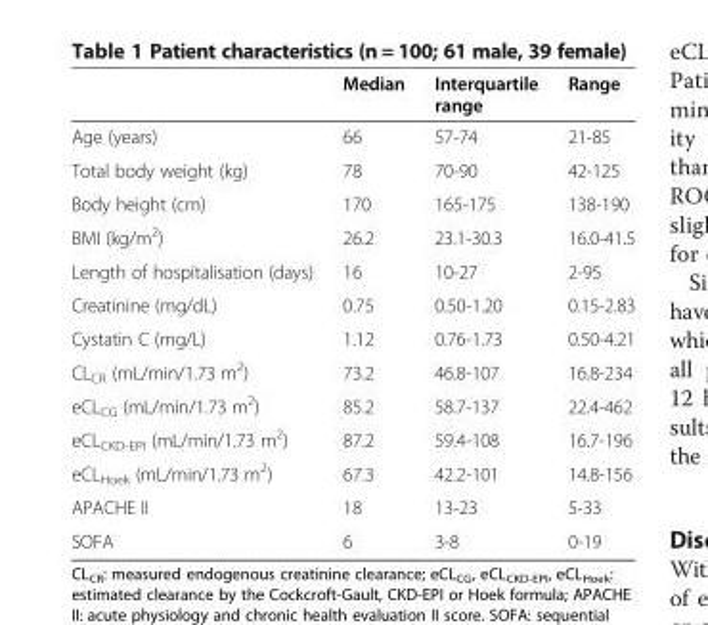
<table><thead><tr><td></td><td>Median</td><td>Interquartile range</td><td>Range</td></tr></thead><tbody><tr><td>Age (years)</td><td>66</td><td>57-74</td><td>21-85</td></tr><tr><td>Total body weight (kg)</td><td>78</td><td>70-90</td><td>42-125</td></tr><tr><td>Body height (cm)</td><td>170</td><td>165-175</td><td>138-190</td></tr><tr><td>BMI (kg/m<sup>2</sup>)</td><td>26.2</td><td>23.1-30.3</td><td>16.0-41.5</td></tr><tr><td>Length of hospitalisation (days)</td><td>16</td><td>10-27</td><td>2-95</td></tr><tr><td>Creatinine (mg/dL)</td><td>0.75</td><td>0.50-1.20</td><td>0.15-2.83</td></tr><tr><td>Cystatin C (mg/L)</td><td>1.12</td><td>0.76-1.73</td><td>0.50-4.21</td></tr><tr><td>CL<sub>CR</sub> (mL/min/1.73 m<sup>2</sup>)</td><td>73.2</td><td>46.8-107</td><td>16.8-234</td></tr><tr><td>eCL<sub>CG</sub> (mL/min/1.73 m<sup>2</sup>)</td><td>85.2</td><td>58.7-137</td><td>22.4-462</td></tr><tr><td>eCL<sub>CKD-EPI</sub> (mL/min/1.73 m<sup>2</sup>)</td><td>87.2</td><td>59.4-108</td><td>16.7-196</td></tr><tr><td>eCL<sub>Hoek</sub> (mL/min/1.73 m<sup>2</sup>)</td><td>67.3</td><td>42.2-101</td><td>14.8-156</td></tr><tr><td>APACHE II</td><td>18</td><td>13-23</td><td>5-33</td></tr><tr><td>SOFA</td><td>6</td><td>3-8</td><td>0-19</td></tr></tbody></table>